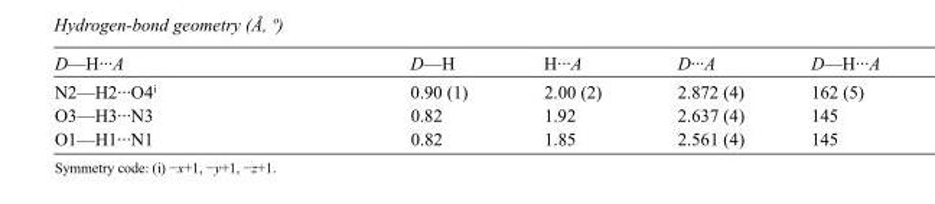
<table><tbody><tr><td>D—H···A</td><td>D—H</td><td>H···A</td><td>D···A</td><td>D—H···A</td></tr><tr><td>N2—H2···O4<sup>i</sup></td><td>0.90 (1)</td><td>2.00 (2)</td><td>2.872 (4)</td><td>162 (5)</td></tr><tr><td>O3—H3···N3</td><td>0.82</td><td>1.92</td><td>2.637 (4)</td><td>145</td></tr><tr><td>O1—H1···N1</td><td>0.82</td><td>1.85</td><td>2.561 (4)</td><td>145</td></tr></tbody></table>